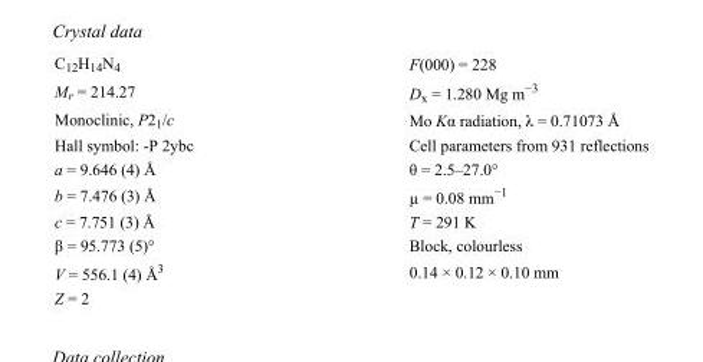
<table><tbody><tr><td>C<sub>12</sub>H<sub>14</sub>N<sub>4</sub></td><td>F(000) = 228</td></tr><tr><td>M<sub>r</sub> = 214.27</td><td>D<sub>x</sub> = 1.280 Mg m<sup>−3</sup></td></tr><tr><td>Monoclinic, P2<sub>1</sub>/c</td><td>Mo Kα radiation, λ = 0.71073 Å</td></tr><tr><td>Hall symbol: -P 2ybc</td><td>Cell parameters from 931 reflections</td></tr><tr><td>a = 9.646 (4) Å</td><td>θ = 2.5–27.0°</td></tr><tr><td>b = 7.476 (3) Å</td><td>µ = 0.08 mm<sup>−1</sup></td></tr><tr><td>c = 7.751 (3) Å</td><td>T = 291 K</td></tr><tr><td>β = 95.773 (5)°</td><td>Block, colourless</td></tr><tr><td>V = 556.1 (4) Å<sup>3</sup></td><td>0.14 × 0.12 × 0.10 mm</td></tr><tr><td>Z = 2</td><td></td></tr></tbody></table>